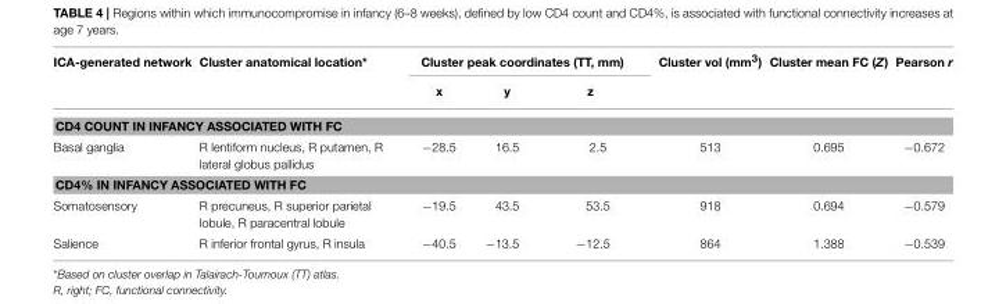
<table><thead><tr><td rowspan="2">ICA-generated network</td><td rowspan="2">Cluster anatomical location*</td><td colspan="3">Cluster peak coordinates (TT, mm)</td><td rowspan="2">Cluster vol (mm<sup>3</sup>)</td><td rowspan="2">Cluster mean FC (Z)</td><td rowspan="2">Pearson r</td></tr><tr><td>x</td><td>y</td><td>z</td></tr></thead><tbody><tr><td colspan="8">CD4 COUNT IN INFANCY ASSOCIATED WITH FC</td></tr><tr><td>Basal ganglia</td><td>R lentiform nucleus, R putamen, R lateral globus pallidus</td><td>−28.5</td><td>16.5</td><td>2.5</td><td>513</td><td>0.695</td><td>−0.672</td></tr><tr><td colspan="8">CD4% IN INFANCY ASSOCIATED WITH FC</td></tr><tr><td>Somatosensory</td><td>R precuneus, R superior parietal lobule, R paracentral lobule</td><td>−19.5</td><td>43.5</td><td>53.5</td><td>918</td><td>0.694</td><td>−0.579</td></tr><tr><td>Salience</td><td>R inferior frontal gyrus, R insula</td><td>−40.5</td><td>−13.5</td><td>−12.5</td><td>864</td><td>1.388</td><td>−0.539</td></tr></tbody></table>